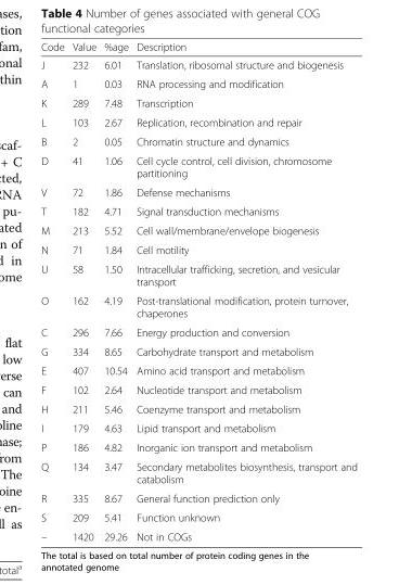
<table><thead><tr><td>Code</td><td>Value</td><td>%age</td><td>Description</td></tr></thead><tbody><tr><td>J</td><td>232</td><td>6.01</td><td>Translation, ribosomal structure and biogenesis</td></tr><tr><td>A</td><td>1</td><td>0.03</td><td>RNA processing and modification</td></tr><tr><td>K</td><td>289</td><td>7.48</td><td>Transcription</td></tr><tr><td>L</td><td>103</td><td>2.67</td><td>Replication, recombination and repair</td></tr><tr><td>B</td><td>2</td><td>0.05</td><td>Chromatin structure and dynamics</td></tr><tr><td>D</td><td>41</td><td>1.06</td><td>Cell cycle control, cell division, chromosome partitioning</td></tr><tr><td>V</td><td>72</td><td>1.86</td><td>Defense mechanisms</td></tr><tr><td>T</td><td>182</td><td>4.71</td><td>Signal transduction mechanisms</td></tr><tr><td>M</td><td>213</td><td>5.52</td><td>Cell wall/membrane/envelope biogenesis</td></tr><tr><td>N</td><td>71</td><td>1.84</td><td>Cell motility</td></tr><tr><td>U</td><td>58</td><td>1.50</td><td>Intracellular trafficking, secretion, and vesicular transport</td></tr><tr><td>O</td><td>162</td><td>4.19</td><td>Post-translational modification, protein turnover, chaperones</td></tr><tr><td>C</td><td>296</td><td>7.66</td><td>Energy production and conversion</td></tr><tr><td>G</td><td>334</td><td>8.65</td><td>Carbohydrate transport and metabolism</td></tr><tr><td>E</td><td>407</td><td>10.54</td><td>Amino acid transport and metabolism</td></tr><tr><td>F</td><td>102</td><td>2.64</td><td>Nucleotide transport and metabolism</td></tr><tr><td>H</td><td>211</td><td>5.46</td><td>Coenzyme transport and metabolism</td></tr><tr><td>I</td><td>179</td><td>4.63</td><td>Lipid transport and metabolism</td></tr><tr><td>P</td><td>186</td><td>4.82</td><td>Inorganic ion transport and metabolism</td></tr><tr><td>Q</td><td>134</td><td>3.47</td><td>Secondary metabolites biosynthesis, transport and catabolism</td></tr><tr><td>R</td><td>335</td><td>8.67</td><td>General function prediction only</td></tr><tr><td>S</td><td>209</td><td>5.41</td><td>Function unknown</td></tr><tr><td>–</td><td>1420</td><td>29.26</td><td>Not in COGs</td></tr></tbody></table>